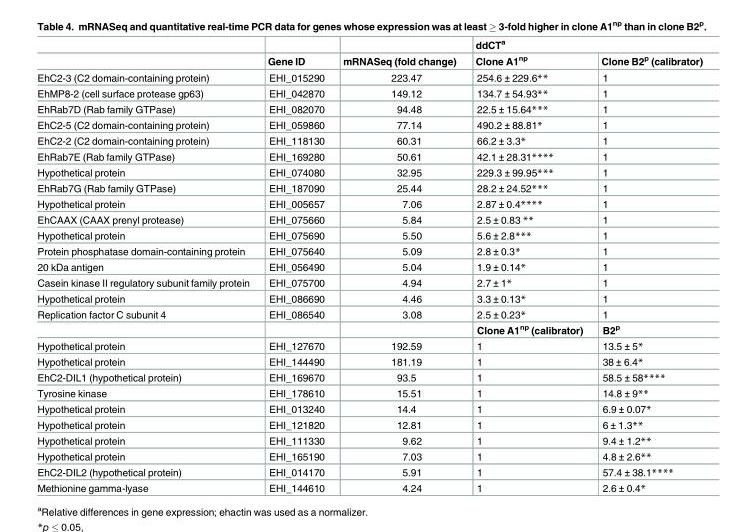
<table><thead><tr><td rowspan="2"></td><td rowspan="2">Gene ID</td><td rowspan="2">mRNASeq (fold change)</td><td colspan="2">ddCT<sup>a</sup></td></tr><tr><td>Clone A1<sup>np</sup></td><td>Clone B2<sup>p</sup> (calibrator)</td></tr></thead><tbody><tr><td>EhC2-3 (C2 domain-containing protein)</td><td>EHI_015290</td><td>223.47</td><td>254.6 ± 229.6**</td><td>1</td></tr><tr><td>EhMP8-2 (cell surface protease gp63)</td><td>EHI_042870</td><td>149.12</td><td>134.7 ± 54.93**</td><td>1</td></tr><tr><td>EhRab7D (Rab family GTPase)</td><td>EHI_082070</td><td>94.48</td><td>22.5 ± 15.64***</td><td>1</td></tr><tr><td>EhC2-5 (C2 domain-containing protein)</td><td>EHI_059860</td><td>77.14</td><td>490.2 ± 88.81*</td><td>1</td></tr><tr><td>EhC2-2 (C2 domain-containing protein)</td><td>EHI_118130</td><td>60.31</td><td>66.2 ± 3.3*</td><td>1</td></tr><tr><td>EhRab7E (Rab family GTPase)</td><td>EHI_169280</td><td>50.61</td><td>42.1 ± 28.31****</td><td>1</td></tr><tr><td>Hypothetical protein</td><td>EHI_074080</td><td>32.95</td><td>229.3 ± 99.95***</td><td>1</td></tr><tr><td>EhRab7G (Rab family GTPase)</td><td>EHI_187090</td><td>25.44</td><td>28.2 ± 24.52***</td><td>1</td></tr><tr><td>Hypothetical protein</td><td>EHI_005657</td><td>7.06</td><td>2.87 ± 0.4****</td><td>1</td></tr><tr><td>EhCAAX (CAAX prenyl protease)</td><td>EHI_075660</td><td>5.84</td><td>2.5 ± 0.83 **</td><td>1</td></tr><tr><td>Hypothetical protein</td><td>EHI_075690</td><td>5.50</td><td>5.6 ± 2.8***</td><td>1</td></tr><tr><td>Protein phosphatase domain-containing protein</td><td>EHI_075640</td><td>5.09</td><td>2.8 ± 0.3*</td><td>1</td></tr><tr><td>20 kDa antigen</td><td>EHI_056490</td><td>5.04</td><td>1.9 ± 0.14*</td><td>1</td></tr><tr><td>Casein kinase II regulatory subunit family protein</td><td>EHI_075700</td><td>4.94</td><td>2.7 ± 1*</td><td>1</td></tr><tr><td>Hypothetical protein</td><td>EHI_086690</td><td>4.46</td><td>3.3 ± 0.13*</td><td>1</td></tr><tr><td rowspan="2">Replication factor C subunit 4</td><td>EHI_086540</td><td>3.08</td><td>2.5 ± 0.23*</td><td>1</td></tr><tr><td></td><td></td><td>Clone A1<sup>np</sup> (calibrator)</td><td>B2<sup>p</sup></td></tr><tr><td>Hypothetical protein</td><td>EHI_127670</td><td>192.59</td><td>1</td><td>13.5 ± 5*</td></tr><tr><td>Hypothetical protein</td><td>EHI_144490</td><td>181.19</td><td>1</td><td>38 ± 6.4*</td></tr><tr><td>EhC2-DIL1 (hypothetical protein)</td><td>EHI_169670</td><td>93.5</td><td>1</td><td>58.5 ± 58****</td></tr><tr><td>Tyrosine kinase</td><td>EHI_178610</td><td>15.51</td><td>1</td><td>14.8 ± 9**</td></tr><tr><td>Hypothetical protein</td><td>EHI_013240</td><td>14.4</td><td>1</td><td>6.9 ± 0.07*</td></tr><tr><td>Hypothetical protein</td><td>EHI_121820</td><td>12.81</td><td>1</td><td>6 ± 1.3**</td></tr><tr><td>Hypothetical protein</td><td>EHI_111330</td><td>9.62</td><td>1</td><td>9.4 ± 1.2**</td></tr><tr><td>Hypothetical protein</td><td>EHI_165190</td><td>7.03</td><td>1</td><td>4.8 ± 2.6**</td></tr><tr><td>EhC2-DIL2 (hypothetical protein)</td><td>EHI_014170</td><td>5.91</td><td>1</td><td>57.4 ± 38.1****</td></tr><tr><td>Methionine gamma-lyase</td><td>EHI_144610</td><td>4.24</td><td>1</td><td>2.6 ± 0.4*</td></tr></tbody></table>